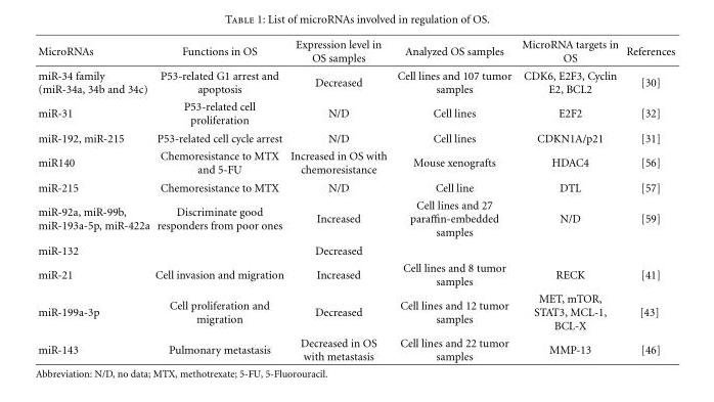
<table><thead><tr><td>MicroRNAs</td><td>Functions in OS</td><td>Expression level in OS samples</td><td>Analyzed OS samples</td><td>MicroRNA targets in OS</td><td>References</td></tr></thead><tbody><tr><td>miR-34 family (miR-34a, 34b and 34c)</td><td>P53-related G1 arrest and apoptosis</td><td>Decreased</td><td>Cell lines and 107 tumor samples</td><td>CDK6, E2F3, Cyclin E2, BCL2</td><td>[30]</td></tr><tr><td>miR-31</td><td>P53-related cell proliferation</td><td>N/D</td><td>Cell lines</td><td>E2F2</td><td>[32]</td></tr><tr><td>miR-192, miR-215</td><td>P53-related cell cycle arrest</td><td>N/D</td><td>Cell lines</td><td>CDKN1A/p21</td><td>[31]</td></tr><tr><td>miR140</td><td>Chemoresistance to MTX and 5-FU</td><td>Increased in OS with chemoresistance</td><td>Mouse xenografts</td><td>HDAC4</td><td>[56]</td></tr><tr><td>miR-215</td><td>Chemoresistance to MTX</td><td>N/D</td><td>Cell line</td><td>DTL</td><td>[57]</td></tr><tr><td>miR-92a, miR-99b, miR-193a-5p, miR-422a</td><td>Discriminate good responders from poor ones</td><td>Increased</td><td>Cell lines and 27 paraffin-embedded samples</td><td>N/D</td><td>[59]</td></tr><tr><td>miR-132</td><td></td><td>Decreased</td><td></td><td></td><td></td></tr><tr><td>miR-21</td><td>Cell invasion and migration</td><td>Increased</td><td>Cell lines and 8 tumor samples</td><td>RECK</td><td>[41]</td></tr><tr><td>miR-199a-3p</td><td>Cell proliferation and migration</td><td>Decreased</td><td>Cell lines and 12 tumor samples</td><td>MET, mTOR, STAT3, MCL-1, BCL-X</td><td>[43]</td></tr><tr><td>miR-143</td><td>Pulmonary metastasis</td><td>Decreased in OS with metastasis</td><td>Cell lines and 22 tumor samples</td><td>MMP-13</td><td>[46]</td></tr></tbody></table>